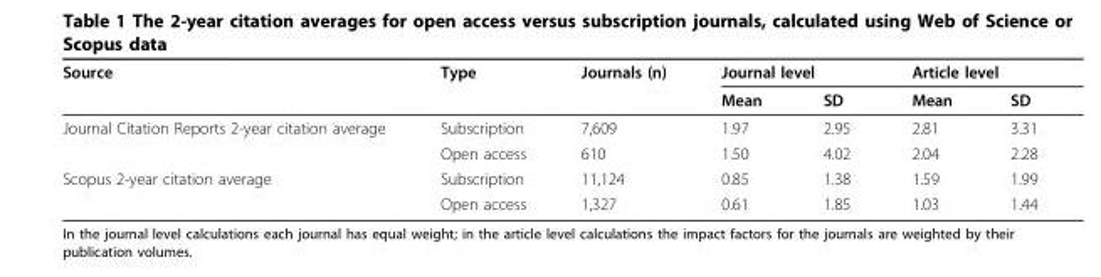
<table><thead><tr><td rowspan="2">Source</td><td rowspan="2">Type</td><td rowspan="2">Journals (n)</td><td colspan="2">Journal level</td><td colspan="2">Article level</td></tr><tr><td>Mean</td><td>SD</td><td>Mean</td><td>SD</td></tr></thead><tbody><tr><td rowspan="2">Journal Citation Reports 2-year citation average</td><td>Subscription</td><td>7,609</td><td>1.97</td><td>2.95</td><td>2.81</td><td>3.31</td></tr><tr><td>Open access</td><td>610</td><td>1.50</td><td>4.02</td><td>2.04</td><td>2.28</td></tr><tr><td rowspan="2">Scopus 2-year citation average</td><td>Subscription</td><td>11,124</td><td>0.85</td><td>1.38</td><td>1.59</td><td>1.99</td></tr><tr><td>Open access</td><td>1,327</td><td>0.61</td><td>1.85</td><td>1.03</td><td>1.44</td></tr></tbody></table>